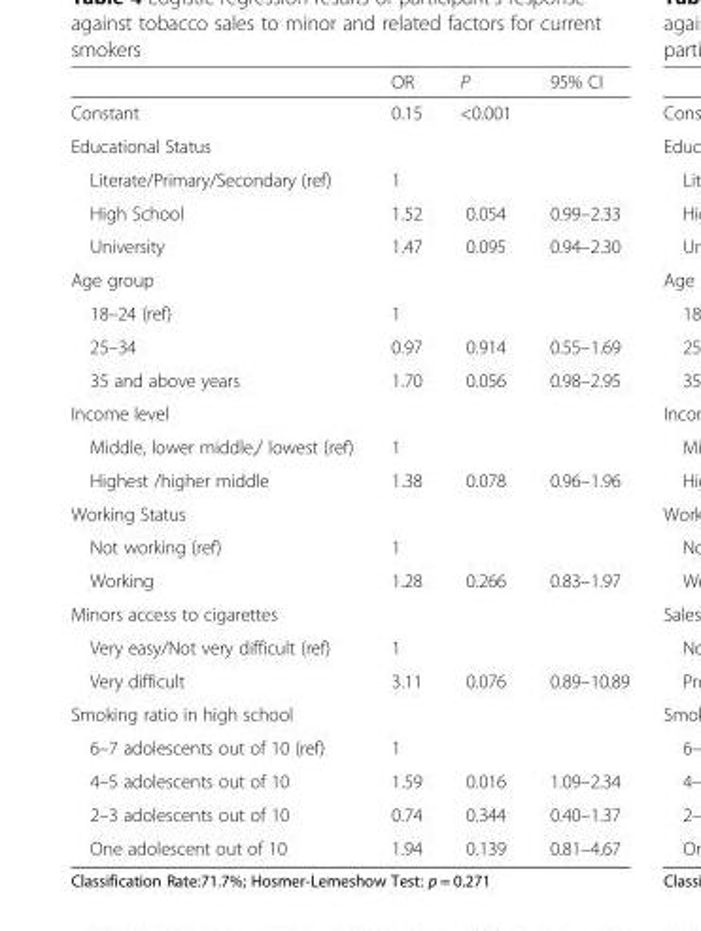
<table><thead><tr><td></td><td>OR</td><td>P</td><td>95% CI</td></tr></thead><tbody><tr><td>Constant</td><td>0.15</td><td>&lt;0.001</td><td></td></tr><tr><td colspan="4">Educational Status</td></tr><tr><td>Literate/Primary/Secondary (ref)</td><td>1</td><td></td><td></td></tr><tr><td>High School</td><td>1.52</td><td>0.054</td><td>0.99–2.33</td></tr><tr><td>University</td><td>1.47</td><td>0.095</td><td>0.94–2.30</td></tr><tr><td colspan="4">Age group</td></tr><tr><td>18–24 (ref)</td><td>1</td><td></td><td></td></tr><tr><td>25–34</td><td>0.97</td><td>0.914</td><td>0.55–1.69</td></tr><tr><td>35 and above years</td><td>1.70</td><td>0.056</td><td>0.98–2.95</td></tr><tr><td colspan="4">Income level</td></tr><tr><td>Middle, lower middle,/ lowest (ref)</td><td>1</td><td></td><td></td></tr><tr><td>Highest /higher middle</td><td>1.38</td><td>0.078</td><td>0.96–1.96</td></tr><tr><td colspan="4">Working Status</td></tr><tr><td>Not working (ref)</td><td>1</td><td></td><td></td></tr><tr><td>Working</td><td>1.28</td><td>0.266</td><td>0.83–1.97</td></tr><tr><td colspan="4">Minors access to cigarettes</td></tr><tr><td>Very easy/Not very difficult (ref)</td><td>1</td><td></td><td></td></tr><tr><td>Very difficult</td><td>3.11</td><td>0.076</td><td>0.89–10.89</td></tr><tr><td colspan="4">Smoking ratio in high school</td></tr><tr><td>6–7 adolescents out of 10 (ref)</td><td>1</td><td></td><td></td></tr><tr><td>4–5 adolescents out of 10</td><td>1.59</td><td>0.016</td><td>1.09–2.34</td></tr><tr><td>2–3 adolescents out of 10</td><td>0.74</td><td>0.344</td><td>0.40–1.37</td></tr><tr><td>One adolescent out of 10</td><td>1.94</td><td>0.139</td><td>0.81–4.67</td></tr></tbody></table>